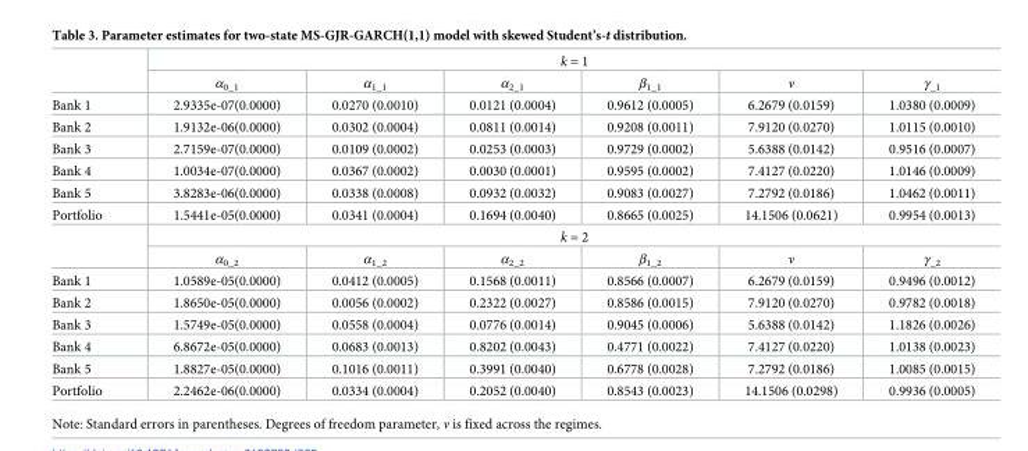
<table><thead><tr><td rowspan="2"></td><td colspan="6">k = 1</td></tr><tr><td>α0_1</td><td>α1_1</td><td>α2_1</td><td>β1_1</td><td>ν</td><td>γ_1</td></tr></thead><tbody><tr><td>Bank 1</td><td>2.9335e-07(0.0000)</td><td>0.0270 (0.0010)</td><td>0.0121 (0.0004)</td><td>0.9612 (0.0005)</td><td>6.2679 (0.0159)</td><td>1.0380 (0.0009)</td></tr><tr><td>Bank 2</td><td>1.9132e-06(0.0000)</td><td>0.0302 (0.0004)</td><td>0.0811 (0.0014)</td><td>0.9208 (0.0011)</td><td>7.9120 (0.0270)</td><td>1.0115 (0.0010)</td></tr><tr><td>Bank 3</td><td>2.7159e-07(0.0000)</td><td>0.0109 (0.0002)</td><td>0.0253 (0.0003)</td><td>0.9729 (0.0002)</td><td>5.6388 (0.0142)</td><td>0.9516 (0.0007)</td></tr><tr><td>Bank 4</td><td>1.0034e-07(0.0000)</td><td>0.0367 (0.0002)</td><td>0.0030 (0.0001)</td><td>0.9595 (0.0002)</td><td>7.4127 (0.0220)</td><td>1.0146 (0.0009)</td></tr><tr><td>Bank 5</td><td>3.8283e-06(0.0000)</td><td>0.0338 (0.0008)</td><td>0.0932 (0.0032)</td><td>0.9083 (0.0027)</td><td>7.2792 (0.0186)</td><td>1.0462 (0.0011)</td></tr><tr><td rowspan="3">Portfolio</td><td>1.5441e-05(0.0000)</td><td>0.0341 (0.0004)</td><td>0.1694 (0.0040)</td><td>0.8665 (0.0025)</td><td>14.1506 (0.0621)</td><td>0.9954 (0.0013)</td></tr><tr><td colspan="6">k = 2</td></tr><tr><td>α0_2</td><td>α1_2</td><td>α2_2</td><td>β1_2</td><td>ν</td><td>γ_2</td></tr><tr><td>Bank 1</td><td>1.0589e-05(0.0000)</td><td>0.0412 (0.0005)</td><td>0.1568 (0.0011)</td><td>0.8566 (0.0007)</td><td>6.2679 (0.0159)</td><td>0.9496 (0.0012)</td></tr><tr><td>Bank 2</td><td>1.8650e-05(0.0000)</td><td>0.0056 (0.0002)</td><td>0.2322 (0.0027)</td><td>0.8586 (0.0015)</td><td>7.9120 (0.0270)</td><td>0.9782 (0.0018)</td></tr><tr><td>Bank 3</td><td>1.5749e-05(0.0000)</td><td>0.0558 (0.0004)</td><td>0.0776 (0.0014)</td><td>0.9045 (0.0006)</td><td>5.6388 (0.0142)</td><td>1.1826 (0.0026)</td></tr><tr><td>Bank 4</td><td>6.8672e-05(0.0000)</td><td>0.0683 (0.0013)</td><td>0.8202 (0.0043)</td><td>0.4771 (0.0022)</td><td>7.4127 (0.0220)</td><td>1.0138 (0.0023)</td></tr><tr><td>Bank 5</td><td>1.8827e-05(0.0000)</td><td>0.1016 (0.0011)</td><td>0.3991 (0.0040)</td><td>0.6778 (0.0028)</td><td>7.2792 (0.0186)</td><td>1.0085 (0.0015)</td></tr><tr><td>Portfolio</td><td>2.2462e-06(0.0000)</td><td>0.0334 (0.0004)</td><td>0.2052 (0.0040)</td><td>0.8543 (0.0023)</td><td>14.1506 (0.0298)</td><td>0.9936 (0.0005)</td></tr></tbody></table>